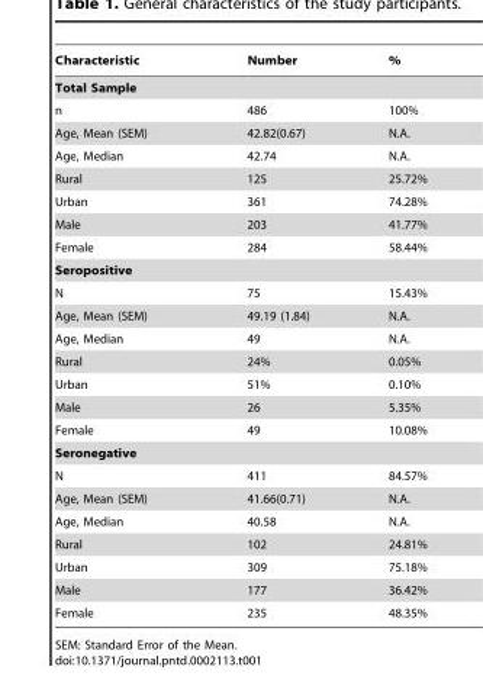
<table><thead><tr><td>Characteristic</td><td>Number</td><td>%</td></tr></thead><tbody><tr><td colspan="3">Total Sample</td></tr><tr><td>n</td><td>486</td><td>100%</td></tr><tr><td>Age, Mean (SEM)</td><td>42.82(0.67)</td><td>N.A.</td></tr><tr><td>Age, Median</td><td>42.74</td><td>N.A.</td></tr><tr><td>Rural</td><td>125</td><td>25.72%</td></tr><tr><td>Urban</td><td>361</td><td>74.28%</td></tr><tr><td>Male</td><td>203</td><td>41.77%</td></tr><tr><td>Female</td><td>284</td><td>58.44%</td></tr><tr><td colspan="3">Seropositive</td></tr><tr><td>N</td><td>75</td><td>15.43%</td></tr><tr><td>Age, Mean (SEM)</td><td>49.19 (1.84)</td><td>N.A.</td></tr><tr><td>Age, Median</td><td>49</td><td>N.A.</td></tr><tr><td>Rural</td><td>24%</td><td>0.05%</td></tr><tr><td>Urban</td><td>51%</td><td>0.10%</td></tr><tr><td>Male</td><td>26</td><td>5.35%</td></tr><tr><td>Female</td><td>49</td><td>10.08%</td></tr><tr><td colspan="3">Seronegative</td></tr><tr><td>N</td><td>411</td><td>84.57%</td></tr><tr><td>Age, Mean (SEM)</td><td>41.66(0.71)</td><td>N.A.</td></tr><tr><td>Age, Median</td><td>40.58</td><td>N.A.</td></tr><tr><td>Rural</td><td>102</td><td>24.81%</td></tr><tr><td>Urban</td><td>309</td><td>75.18%</td></tr><tr><td>Male</td><td>177</td><td>36.42%</td></tr><tr><td>Female</td><td>235</td><td>48.35%</td></tr></tbody></table>